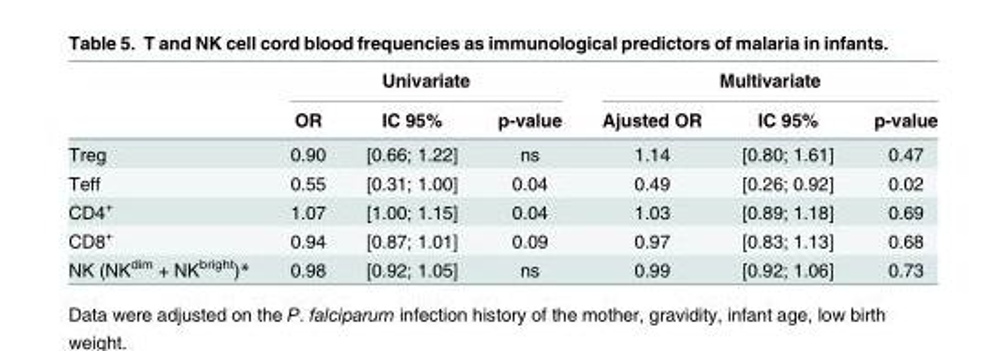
<table><thead><tr><td rowspan="2"></td><td colspan="3">Univariate</td><td colspan="3">Multivariate</td></tr><tr><td>OR</td><td>IC 95%</td><td>p-value</td><td>Ajusted OR</td><td>IC 95%</td><td>p-value</td></tr></thead><tbody><tr><td>Treg</td><td>0.90</td><td>[0.66; 1.22]</td><td>ns</td><td>1.14</td><td>[0.80; 1.61]</td><td>0.47</td></tr><tr><td>Teff</td><td>0.55</td><td>[0.31; 1.00]</td><td>0.04</td><td>0.49</td><td>[0.26; 0.92]</td><td>0.02</td></tr><tr><td>CD4<sup>+</sup></td><td>1.07</td><td>[1.00; 1.15]</td><td>0.04</td><td>1.03</td><td>[0.89; 1.18]</td><td>0.69</td></tr><tr><td>CD8<sup>+</sup></td><td>0.94</td><td>[0.87; 1.01]</td><td>0.09</td><td>0.97</td><td>[0.83; 1.13]</td><td>0.68</td></tr><tr><td>NK (NK<sup>dim</sup> + NK<sup>bright</sup>)*</td><td>0.98</td><td>[0.92; 1.05]</td><td>ns</td><td>0.99</td><td>[0.92; 1.06]</td><td>0.73</td></tr></tbody></table>